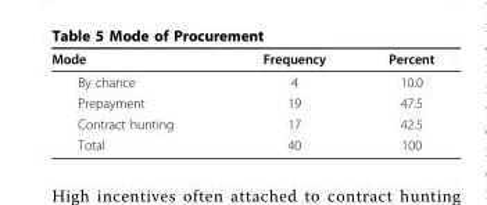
<table><thead><tr><td>Mode</td><td>Frequency</td><td>Percent</td></tr></thead><tbody><tr><td>By chance</td><td>4</td><td>10.0</td></tr><tr><td>Prepayment</td><td>19</td><td>47.5</td></tr><tr><td>Contract hunting</td><td>17</td><td>42.5</td></tr><tr><td>Total</td><td>40</td><td>100</td></tr></tbody></table>